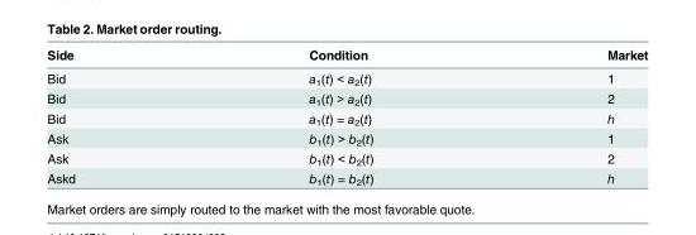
<table><thead><tr><td>Side</td><td>Condition</td><td>Market</td></tr></thead><tbody><tr><td>Bid</td><td>a<sub>1</sub>(t) &lt; a<sub>2</sub>(t)</td><td>1</td></tr><tr><td>Bid</td><td>a<sub>1</sub>(t) &gt; a<sub>2</sub>(t)</td><td>2</td></tr><tr><td>Bid</td><td>a<sub>1</sub>(t) = a<sub>2</sub>(t)</td><td>h</td></tr><tr><td>Ask</td><td>b<sub>1</sub>(t) &gt; b<sub>2</sub>(t)</td><td>1</td></tr><tr><td>Ask</td><td>b<sub>1</sub>(t) &lt; b<sub>2</sub>(t)</td><td>2</td></tr><tr><td>Askd</td><td>b<sub>1</sub>(t) = b<sub>2</sub>(t)</td><td>h</td></tr></tbody></table>